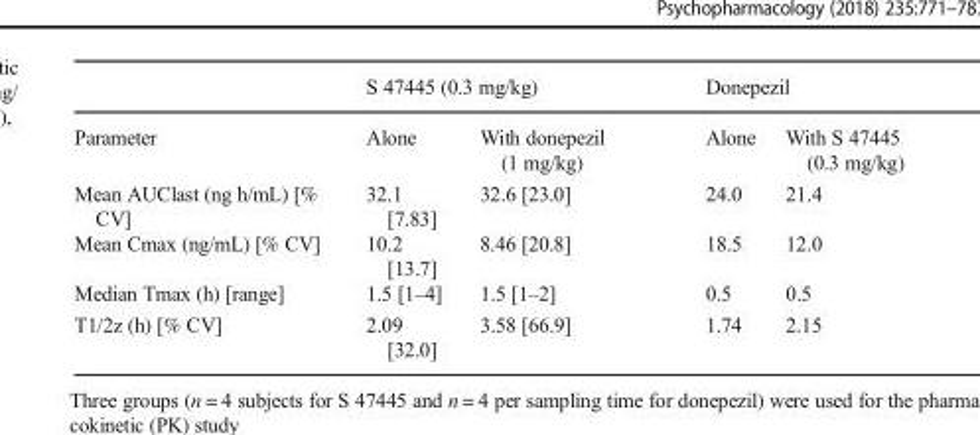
<table><thead><tr><td rowspan="2">Parameter</td><td colspan="2">S 47445 (0.3 mg/kg)</td><td colspan="2">Donepezil</td></tr><tr><td>Alone</td><td>With donepezil (1 mg/kg)</td><td>Alone</td><td>With S 47445 (0.3 mg/kg)</td></tr></thead><tbody><tr><td>Mean AUClast (ng h/mL) [% CV]</td><td>32.1 [7.83]</td><td>32.6 [23.0]</td><td>24.0</td><td>21.4</td></tr><tr><td>Mean Cmax (ng/mL) [% CV]</td><td>10.2 [13.7]</td><td>8.46 [20.8]</td><td>18.5</td><td>12.0</td></tr><tr><td>Median Tmax (h) [range]</td><td>1.5 [1–4]</td><td>1.5 [1–2]</td><td>0.5</td><td>0.5</td></tr><tr><td>T1/2z (h) [% CV]</td><td>2.09 [32.0]</td><td>3.58 [66.9]</td><td>1.74</td><td>2.15</td></tr></tbody></table>